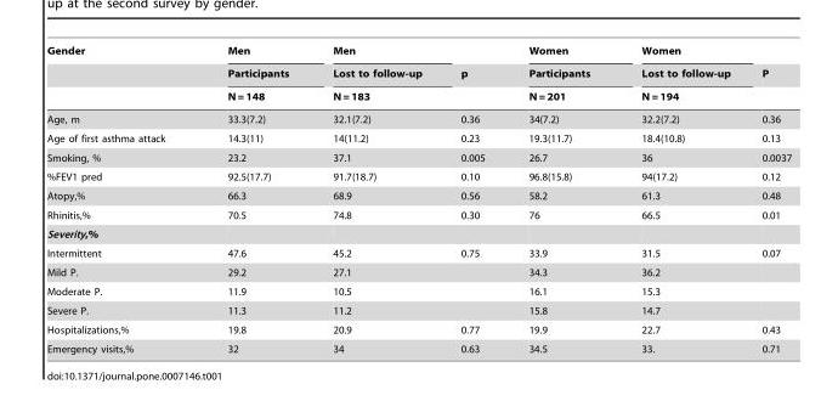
<table><thead><tr><td rowspan="3">Gender</td><td rowspan="3">Men Participants N = 148</td><td rowspan="3">Men Lost to follow-up N = 183</td><td rowspan="3">p</td><td rowspan="3">Women Participants N = 201</td><td rowspan="3">Women Lost to follow-up N = 194</td><td rowspan="3">P</td></tr><tr></tr><tr></tr></thead><tbody><tr><td>Age, m</td><td>33.3(7.2)</td><td>32.1(7.2)</td><td>0.36</td><td>34(7.2)</td><td>32.2(7.2)</td><td>0.36</td></tr><tr><td>Age of first asthma attack</td><td>14.3(11)</td><td>14(11.2)</td><td>0.23</td><td>19.3(11.7)</td><td>18.4(10.8)</td><td>0.13</td></tr><tr><td>Smoking, %</td><td>23.2</td><td>37.1</td><td>0.005</td><td>26.7</td><td>36</td><td>0.0037</td></tr><tr><td>%FEV1 pred</td><td>92.5(17.7)</td><td>91.7(18.7)</td><td>0.10</td><td>96.8(15.8)</td><td>94(17.2)</td><td>0.12</td></tr><tr><td>Atopy,%</td><td>66.3</td><td>68.9</td><td>0.56</td><td>58.2</td><td>61.3</td><td>0.48</td></tr><tr><td>Rhinitis,%</td><td>70.5</td><td>74.8</td><td>0.30</td><td>76</td><td>66.5</td><td>0.01</td></tr><tr><td colspan="7">Severity,%</td></tr><tr><td>Intermittent</td><td>47.6</td><td>45.2</td><td>0.75</td><td>33.9</td><td>31.5</td><td>0.07</td></tr><tr><td>Mild P.</td><td>29.2</td><td>27.1</td><td></td><td>34.3</td><td>36.2</td><td></td></tr><tr><td>Moderate P.</td><td>11.9</td><td>10.5</td><td></td><td>16.1</td><td>15.3</td><td></td></tr><tr><td>Severe P.</td><td>11.3</td><td>11.2</td><td></td><td>15.8</td><td>14.7</td><td></td></tr><tr><td>Hospitalizations,%</td><td>19.8</td><td>20.9</td><td>0.77</td><td>19.9</td><td>22.7</td><td>0.43</td></tr><tr><td>Emergency visits,%</td><td>32</td><td>34</td><td>0.63</td><td>34.5</td><td>33.</td><td>0.71</td></tr></tbody></table>